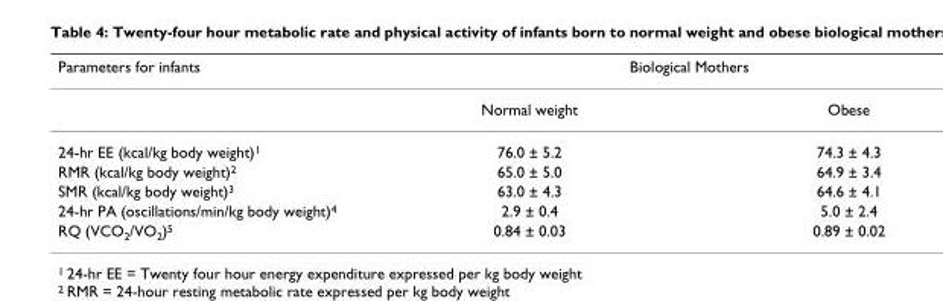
<table><thead><tr><td rowspan="2">Parameters for infants</td><td colspan="2">Biological Mothers</td></tr><tr><td>Normal weight</td><td>Obese</td></tr></thead><tbody><tr><td>24-hr EE (kcal/kg body weight)<sup>1</sup></td><td>76.0 ± 5.2</td><td>74.3 ± 4.3</td></tr><tr><td>RMR (kcal/kg body weight)<sup>2</sup></td><td>65.0 ± 5.0</td><td>64.9 ± 3.4</td></tr><tr><td>SMR (kcal/kg body weight)<sup>3</sup></td><td>63.0 ± 4.3</td><td>64.6 ± 4.1</td></tr><tr><td>24-hr PA (oscillations/min/kg body weight)<sup>4</sup></td><td>2.9 ± 0.4</td><td>5.0 ± 2.4</td></tr><tr><td>RQ (VCO<sub>2</sub>/VO<sub>2</sub>)<sup>5</sup></td><td>0.84 ± 0.03</td><td>0.89 ± 0.02</td></tr></tbody></table>